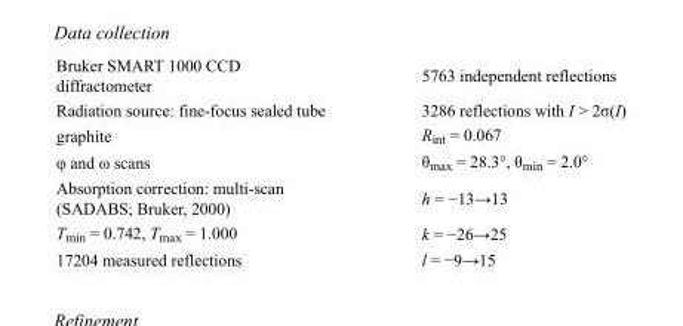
<table><tbody><tr><td>Bruker SMART 1000 CCD diffractometer</td><td>5763 independent reflections</td></tr><tr><td>Radiation source: fine-focus sealed tube</td><td>3286 reflections with I &gt; 2σ(I)</td></tr><tr><td>graphite</td><td>R<sub>int</sub> = 0.067</td></tr><tr><td>φ and ω scans</td><td>θ<sub>max</sub> = 28.3°, θ<sub>min</sub> = 2.0°</td></tr><tr><td>Absorption correction: multi-scan (SADABS; Bruker, 2000)</td><td>h = −13→13</td></tr><tr><td>T<sub>min</sub> = 0.742, T<sub>max</sub> = 1.000</td><td>k = −26→25</td></tr><tr><td>17204 measured reflections</td><td>l = −9→15</td></tr></tbody></table>